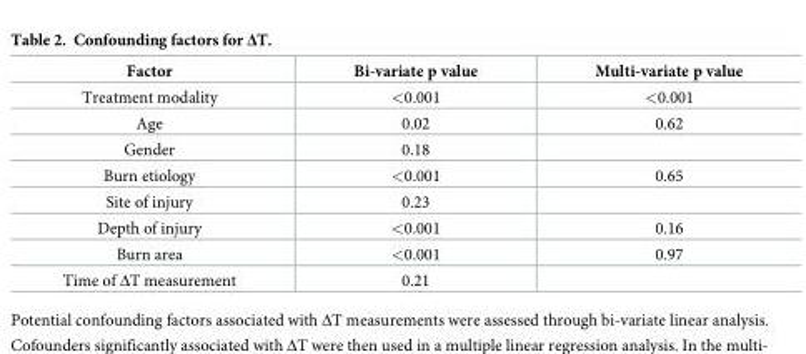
<table><thead><tr><td>Factor</td><td>Bi-variate p value</td><td>Multi-variate p value</td></tr></thead><tbody><tr><td>Treatment modality</td><td>&lt;0.001</td><td>&lt;0.001</td></tr><tr><td>Age</td><td>0.02</td><td>0.62</td></tr><tr><td>Gender</td><td>0.18</td><td></td></tr><tr><td>Burn etiology</td><td>&lt;0.001</td><td>0.65</td></tr><tr><td>Site of injury</td><td>0.23</td><td></td></tr><tr><td>Depth of injury</td><td>&lt;0.001</td><td>0.16</td></tr><tr><td>Burn area</td><td>&lt;0.001</td><td>0.97</td></tr><tr><td>Time of ΔT measurement</td><td>0.21</td><td></td></tr></tbody></table>